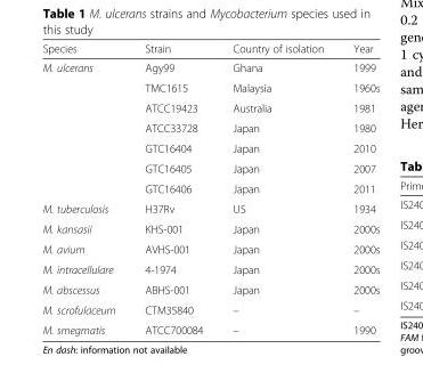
<table><thead><tr><td>Species</td><td>Strain</td><td>Country of isolation</td><td>Year</td></tr></thead><tbody><tr><td rowspan="7">M. ulcerans</td><td>Agy99</td><td>Ghana</td><td>1999</td></tr><tr><td>TMC1615</td><td>Malaysia</td><td>1960s</td></tr><tr><td>ATCC19423</td><td>Australia</td><td>1981</td></tr><tr><td>ATCC33728</td><td>Japan</td><td>1980</td></tr><tr><td>GTC16404</td><td>Japan</td><td>2010</td></tr><tr><td>GTC16405</td><td>Japan</td><td>2007</td></tr><tr><td>GTC16406</td><td>Japan</td><td>2011</td></tr><tr><td>M. tuberculosis</td><td>H37Rv</td><td>US</td><td>1934</td></tr><tr><td>M. kansasii</td><td>KHS-001</td><td>Japan</td><td>2000s</td></tr><tr><td>M. avium</td><td>AVHS-001</td><td>Japan</td><td>2000s</td></tr><tr><td>M. intracellulare</td><td>4-1974</td><td>Japan</td><td>2000s</td></tr><tr><td>M. abscessus</td><td>ABHS-001</td><td>Japan</td><td>2000s</td></tr><tr><td>M. scrofulaceum</td><td>CTM35840</td><td>–</td><td>–</td></tr><tr><td>M. smegmatis</td><td>ATCC700084</td><td>–</td><td>1990</td></tr></tbody></table>